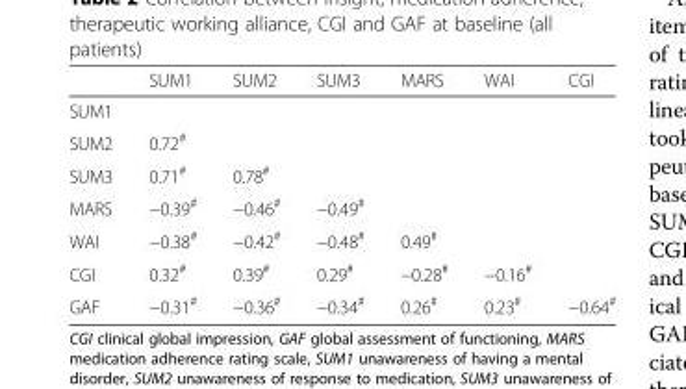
<table><thead><tr><td></td><td>SUM1</td><td>SUM2</td><td>SUM3</td><td>MARS</td><td>WAI</td><td>CGI</td></tr></thead><tbody><tr><td colspan="7">SUM1</td></tr><tr><td>SUM2</td><td>0.72<sup>#</sup></td><td></td><td></td><td></td><td></td><td></td></tr><tr><td>SUM3</td><td>0.71<sup>#</sup></td><td>0.78<sup>#</sup></td><td></td><td></td><td></td><td></td></tr><tr><td>MARS</td><td>−0.39<sup>#</sup></td><td>−0.46<sup>#</sup></td><td>−0.49<sup>#</sup></td><td></td><td></td><td></td></tr><tr><td>WAI</td><td>−0.38<sup>#</sup></td><td>−0.42<sup>#</sup></td><td>−0.48<sup>#</sup></td><td>0.49<sup>#</sup></td><td></td><td></td></tr><tr><td>CGI</td><td>0.32<sup>#</sup></td><td>0.39<sup>#</sup></td><td>0.29<sup>#</sup></td><td>−0.28<sup>#</sup></td><td>−0.16<sup>#</sup></td><td></td></tr><tr><td>GAF</td><td>−0.31<sup>#</sup></td><td>−0.36<sup>#</sup></td><td>−0.34<sup>#</sup></td><td>0.26<sup>#</sup></td><td>0.23<sup>#</sup></td><td>−0.64<sup>#</sup></td></tr></tbody></table>